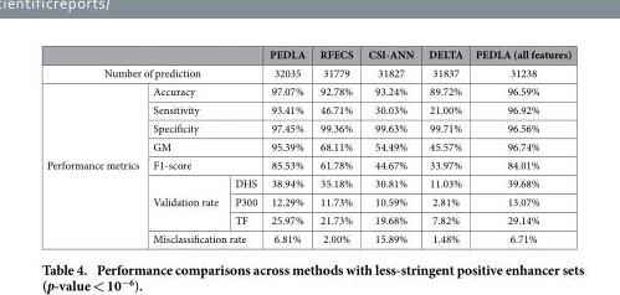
<table><thead><tr><td></td><td></td><td></td><td>PEDLA</td><td>RFECS</td><td>CSI-ANN</td><td>DELTA</td><td>PEDLA (all features)</td></tr></thead><tbody><tr><td colspan="3">Number of prediction</td><td>32035</td><td>31779</td><td>31827</td><td>31837</td><td>31238</td></tr><tr><td rowspan="9">Performance metrics</td><td colspan="2">Accuracy</td><td>97.07%</td><td>92.78%</td><td>93.24%</td><td>89.72%</td><td>96.59%</td></tr><tr><td colspan="2">Sensitivity</td><td>93.41%</td><td>46.71%</td><td>30.03%</td><td>21.00%</td><td>96.92%</td></tr><tr><td colspan="2">Specificity</td><td>97.45%</td><td>99.36%</td><td>99.63%</td><td>99.71%</td><td>96.56%</td></tr><tr><td colspan="2">GM</td><td>95.39%</td><td>68.11%</td><td>54.49%</td><td>45.57%</td><td>96.74%</td></tr><tr><td colspan="2">F1-score</td><td>85.53%</td><td>61.78%</td><td>44.67%</td><td>33.97%</td><td>84.01%</td></tr><tr><td rowspan="3">Validation rate</td><td>DHS</td><td>38.94%</td><td>35.18%</td><td>30.81%</td><td>11.03%</td><td>39.68%</td></tr><tr><td>P300</td><td>12.29%</td><td>11.73%</td><td>10.59%</td><td>2.81%</td><td>13.07%</td></tr><tr><td>TF</td><td>25.97%</td><td>21.73%</td><td>19.68%</td><td>7.82%</td><td>29.14%</td></tr><tr><td colspan="2">Misclassification rate</td><td>6.81%</td><td>2.00%</td><td>15.89%</td><td>1.48%</td><td>6.71%</td></tr></tbody></table>